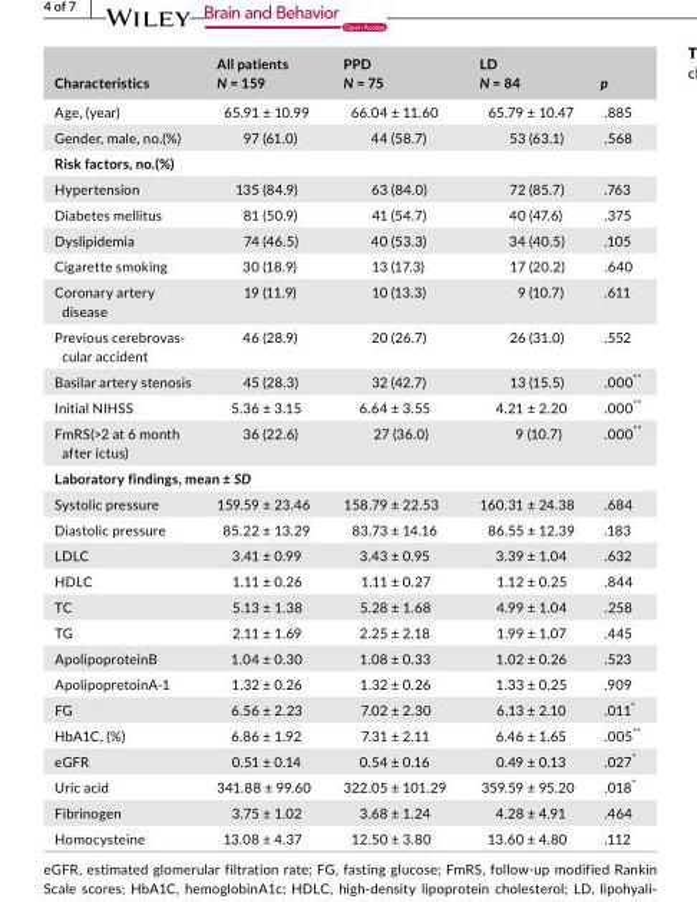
<table><thead><tr><td>Characteristics</td><td>All patients N = 159</td><td>PPD N = 75</td><td>LD N = 84</td><td>p</td></tr></thead><tbody><tr><td>Age, (year)</td><td>65.91 ± 10.99</td><td>66.04 ± 11.60</td><td>65.79 ± 10.47</td><td>.885</td></tr><tr><td>Gender, male, no.(%)</td><td>97 (61.0)</td><td>44 (58.7)</td><td>53 (63.1)</td><td>.568</td></tr><tr><td colspan="5">Risk factors, no.(%)</td></tr><tr><td>Hypertension</td><td>135 (84.9)</td><td>63 (84.0)</td><td>72 (85.7)</td><td>.763</td></tr><tr><td>Diabetes mellitus</td><td>81 (50.9)</td><td>41 (54.7)</td><td>40 (47.6)</td><td>.375</td></tr><tr><td>Dyslipidemia</td><td>74 (46.5)</td><td>40 (53.3)</td><td>34 (40.5)</td><td>.105</td></tr><tr><td>Cigarette smoking</td><td>30 (18.9)</td><td>13 (17.3)</td><td>17 (20.2)</td><td>.640</td></tr><tr><td>Coronary artery disease</td><td>19 (11.9)</td><td>10 (13.3)</td><td>9 (10.7)</td><td>.611</td></tr><tr><td>Previous cerebrovas- cular accident</td><td>46 (28.9)</td><td>20 (26.7)</td><td>26 (31.0)</td><td>.552</td></tr><tr><td>Basilar artery stenosis</td><td>45 (28.3)</td><td>32 (42.7)</td><td>13 (15.5)</td><td>.000**</td></tr><tr><td>Initial NIHSS</td><td>5.36 ± 3.15</td><td>6.64 ± 3.55</td><td>4.21 ± 2.20</td><td>.000**</td></tr><tr><td>FmRS(&gt;2 at 6 month after ictus)</td><td>36 (22.6)</td><td>27 (36.0)</td><td>9 (10.7)</td><td>.000**</td></tr><tr><td colspan="5">Laboratory findings, mean ± SD</td></tr><tr><td>Systolic pressure</td><td>159.59 ± 23.46</td><td>158.79 ± 22.53</td><td>160.31 ± 24.38</td><td>.684</td></tr><tr><td>Diastolic pressure</td><td>85.22 ± 13.29</td><td>83.73 ± 14.16</td><td>86.55 ± 12.39</td><td>.183</td></tr><tr><td>LDLC</td><td>3.41 ± 0.99</td><td>3.43 ± 0.95</td><td>3.39 ± 1.04</td><td>.632</td></tr><tr><td>HDLC</td><td>1.11 ± 0.26</td><td>1.11 ± 0.27</td><td>1.12 ± 0.25</td><td>.844</td></tr><tr><td>TC</td><td>5.13 ± 1.38</td><td>5.28 ± 1.68</td><td>4.99 ± 1.04</td><td>.258</td></tr><tr><td>TG</td><td>2.11 ± 1.69</td><td>2.25 ± 2.18</td><td>1.99 ± 1.07</td><td>.445</td></tr><tr><td>ApolipoproteinB</td><td>1.04 ± 0.30</td><td>1.08 ± 0.33</td><td>1.02 ± 0.26</td><td>.523</td></tr><tr><td>ApolipopretoinA- 1</td><td>1.32 ± 0.26</td><td>1.32 ± 0.26</td><td>1.33 ± 0.25</td><td>.909</td></tr><tr><td>FG</td><td>6.56 ± 2.23</td><td>7.02 ± 2.30</td><td>6.13 ± 2.10</td><td>.011*</td></tr><tr><td>HbA1C, (%)</td><td>6.86 ± 1.92</td><td>7.31 ± 2.11</td><td>6.46 ± 1.65</td><td>.005**</td></tr><tr><td>eGFR</td><td>0.51 ± 0.14</td><td>0.54 ± 0.16</td><td>0.49 ± 0.13</td><td>.027*</td></tr><tr><td>Uric acid</td><td>341.88 ± 99.60</td><td>322.05 ± 101.29</td><td>359.59 ± 95.20</td><td>.018*</td></tr><tr><td>Fibrinogen</td><td>3.75 ± 1.02</td><td>3.68 ± 1.24</td><td>4.28 ± 4.91</td><td>.464</td></tr><tr><td>Homocysteine</td><td>13.08 ± 4.37</td><td>12.50 ± 3.80</td><td>13.60 ± 4.80</td><td>.112</td></tr></tbody></table>